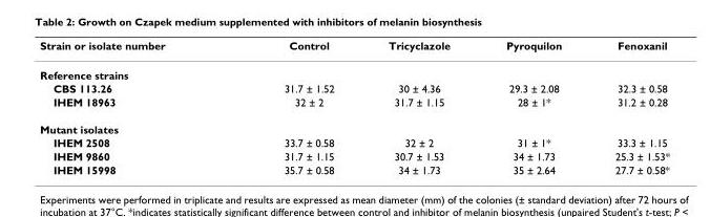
<table><thead><tr><td>Strain or isolate number</td><td>Control</td><td>Tricyclazole</td><td>Pyroquilon</td><td>Fenoxanil</td></tr></thead><tbody><tr><td colspan="5">Reference strains</td></tr><tr><td>CBS 113.26</td><td>31.7 ± 1.52</td><td>30 ± 4.36</td><td>29.3 ± 2.08</td><td>32.3 ± 0.58</td></tr><tr><td>IHEM 18963</td><td>32 ± 2</td><td>31.7 ± 1.15</td><td>28 ± 1*</td><td>31.2 ± 0.28</td></tr><tr><td colspan="5">Mutant isolates</td></tr><tr><td>IHEM 2508</td><td>33.7 ± 0.58</td><td>32 ± 2</td><td>31 ± 1*</td><td>33.3 ± 1.15</td></tr><tr><td>IHEM 9860</td><td>31.7 ± 1.15</td><td>30.7 ± 1.53</td><td>34 ± 1.73</td><td>25.3 ± 1.53*</td></tr><tr><td>IHEM 15998</td><td>35.7 ± 0.58</td><td>34 ± 1.73</td><td>35 ± 2.64</td><td>27.7 ± 0.58*</td></tr></tbody></table>